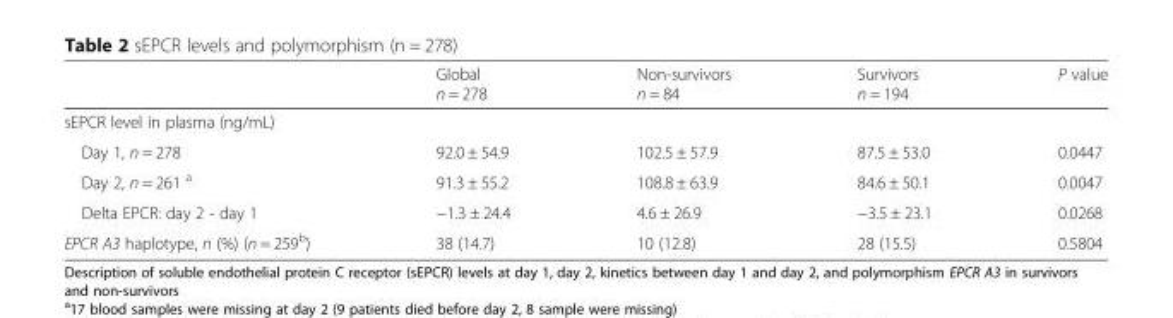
<table><thead><tr><td></td><td>Global n = 278</td><td>Non-survivors n = 84</td><td>Survivors n = 194</td><td>P value</td></tr></thead><tbody><tr><td colspan="5">sEPCR level in plasma (ng/mL)</td></tr><tr><td>Day 1, n = 278</td><td>92.0 ± 54.9</td><td>102.5 ± 57.9</td><td>87.5 ± 53.0</td><td>0.0447</td></tr><tr><td>Day 2, n = 261 <sup>a</sup></td><td>91.3 ± 55.2</td><td>108.8 ± 63.9</td><td>84.6 ± 50.1</td><td>0.0047</td></tr><tr><td>Delta EPCR: day 2 - day 1</td><td>−1.3 ± 24.4</td><td>4.6 ± 26.9</td><td>−3.5 ± 23.1</td><td>0.0268</td></tr><tr><td>EPCR A3 haplotype, n (%) (n = 259<sup>b</sup>)</td><td>38 (14.7)</td><td>10 (12.8)</td><td>28 (15.5)</td><td>0.5804</td></tr></tbody></table>